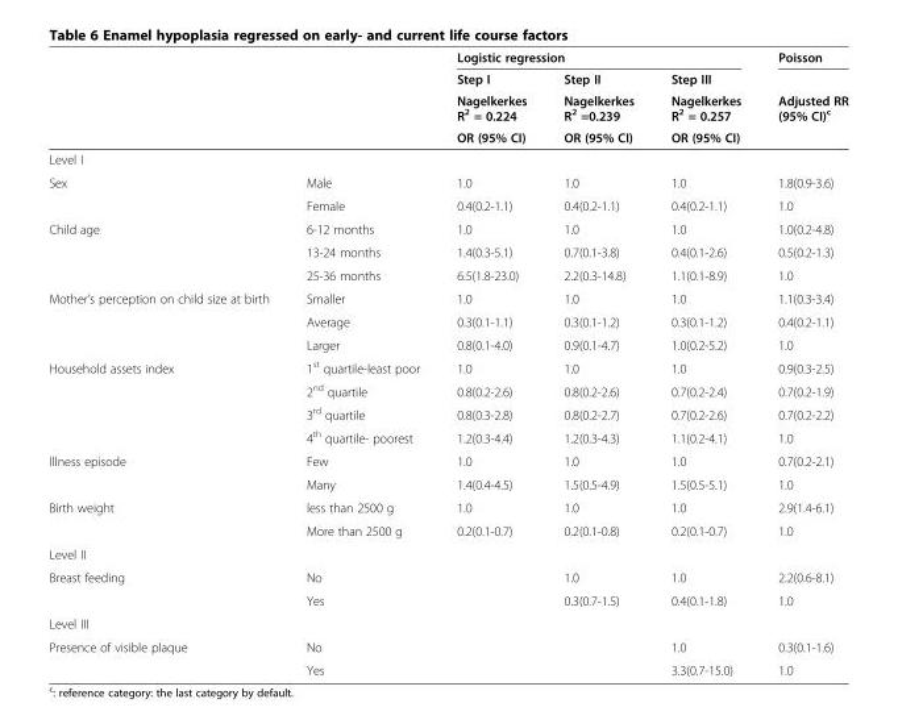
<table><thead><tr><td rowspan="4"></td><td rowspan="4"></td><td colspan="3">Logistic regression</td><td rowspan="4">Poisson Adjusted RR (95% CI)<sup>c</sup></td></tr><tr><td rowspan="3">Step I Nagelkerkes R<sup>2</sup> = 0.224 OR (95% CI)</td><td rowspan="3">Step II Nagelkerkes R<sup>2</sup> =0.239 OR (95% CI)</td><td rowspan="3">Step III Nagelkerkes R<sup>2</sup> = 0.257 OR (95% CI)</td></tr><tr></tr><tr></tr></thead><tbody><tr><td colspan="6">Level I</td></tr><tr><td rowspan="2">Sex</td><td>Male</td><td>1.0</td><td>1.0</td><td>1.0</td><td>1.8(0.9-3.6)</td></tr><tr><td>Female</td><td>0.4(0.2-1.1)</td><td>0.4(0.2-1.1)</td><td>0.4(0.2-1.1)</td><td>1.0</td></tr><tr><td rowspan="3">Child age</td><td>6-12 months</td><td>1.0</td><td>1.0</td><td>1.0</td><td>1.0(0.2-4.8)</td></tr><tr><td>13-24 months</td><td>1.4(0.3-5.1)</td><td>0.7(0.1-3.8)</td><td>0.4(0.1-2.6)</td><td>0.5(0.2-1.3)</td></tr><tr><td>25-36 months</td><td>6.5(1.8-23.0)</td><td>2.2(0.3-14.8)</td><td>1.1(0.1-8.9)</td><td>1.0</td></tr><tr><td rowspan="3">Mother’s perception on child size at birth</td><td>Smaller</td><td>1.0</td><td>1.0</td><td>1.0</td><td>1.1(0.3-3.4)</td></tr><tr><td>Average</td><td>0.3(0.1-1.1)</td><td>0.3(0.1-1.2)</td><td>0.3(0.1-1.2)</td><td>0.4(0.2-1.1)</td></tr><tr><td>Larger</td><td>0.8(0.1-4.0)</td><td>0.9(0.1-4.7)</td><td>1.0(0.2-5.2)</td><td>1.0</td></tr><tr><td rowspan="4">Household assets index</td><td>1<sup>st</sup> quartile-least poor</td><td>1.0</td><td>1.0</td><td>1.0</td><td>0.9(0.3-2.5)</td></tr><tr><td>2<sup>nd</sup> quartile</td><td>0.8(0.2-2.6)</td><td>0.8(0.2-2.6)</td><td>0.7(0.2-2.4)</td><td>0.7(0.2-1.9)</td></tr><tr><td>3<sup>rd</sup> quartile</td><td>0.8(0.3-2.8)</td><td>0.8(0.2-2.7)</td><td>0.7(0.2-2.6)</td><td>0.7(0.2-2.2)</td></tr><tr><td>4<sup>th</sup> quartile- poorest</td><td>1.2(0.3-4.4)</td><td>1.2(0.3-4.3)</td><td>1.1(0.2-4.1)</td><td>1.0</td></tr><tr><td rowspan="2">Illness episode</td><td>Few</td><td>1.0</td><td>1.0</td><td>1.0</td><td>0.7(0.2-2.1)</td></tr><tr><td>Many</td><td>1.4(0.4-4.5)</td><td>1.5(0.5-4.9)</td><td>1.5(0.5-5.1)</td><td>1.0</td></tr><tr><td rowspan="2">Birth weight</td><td>less than 2500 g</td><td>1.0</td><td>1.0</td><td>1.0</td><td>2.9(1.4-6.1)</td></tr><tr><td>More than 2500 g</td><td>0.2(0.1-0.7)</td><td>0.2(0.1-0.8)</td><td>0.2(0.1-0.7)</td><td>1.0</td></tr><tr><td colspan="6">Level II</td></tr><tr><td rowspan="2">Breast feeding</td><td>No</td><td></td><td>1.0</td><td>1.0</td><td>2.2(0.6-8.1)</td></tr><tr><td>Yes</td><td></td><td>0.3(0.7-1.5)</td><td>0.4(0.1-1.8)</td><td>1.0</td></tr><tr><td colspan="6">Level III</td></tr><tr><td rowspan="2">Presence of visible plaque</td><td>No</td><td></td><td></td><td>1.0</td><td>0.3(0.1-1.6)</td></tr><tr><td>Yes</td><td></td><td></td><td>3.3(0.7-15.0)</td><td>1.0</td></tr></tbody></table>